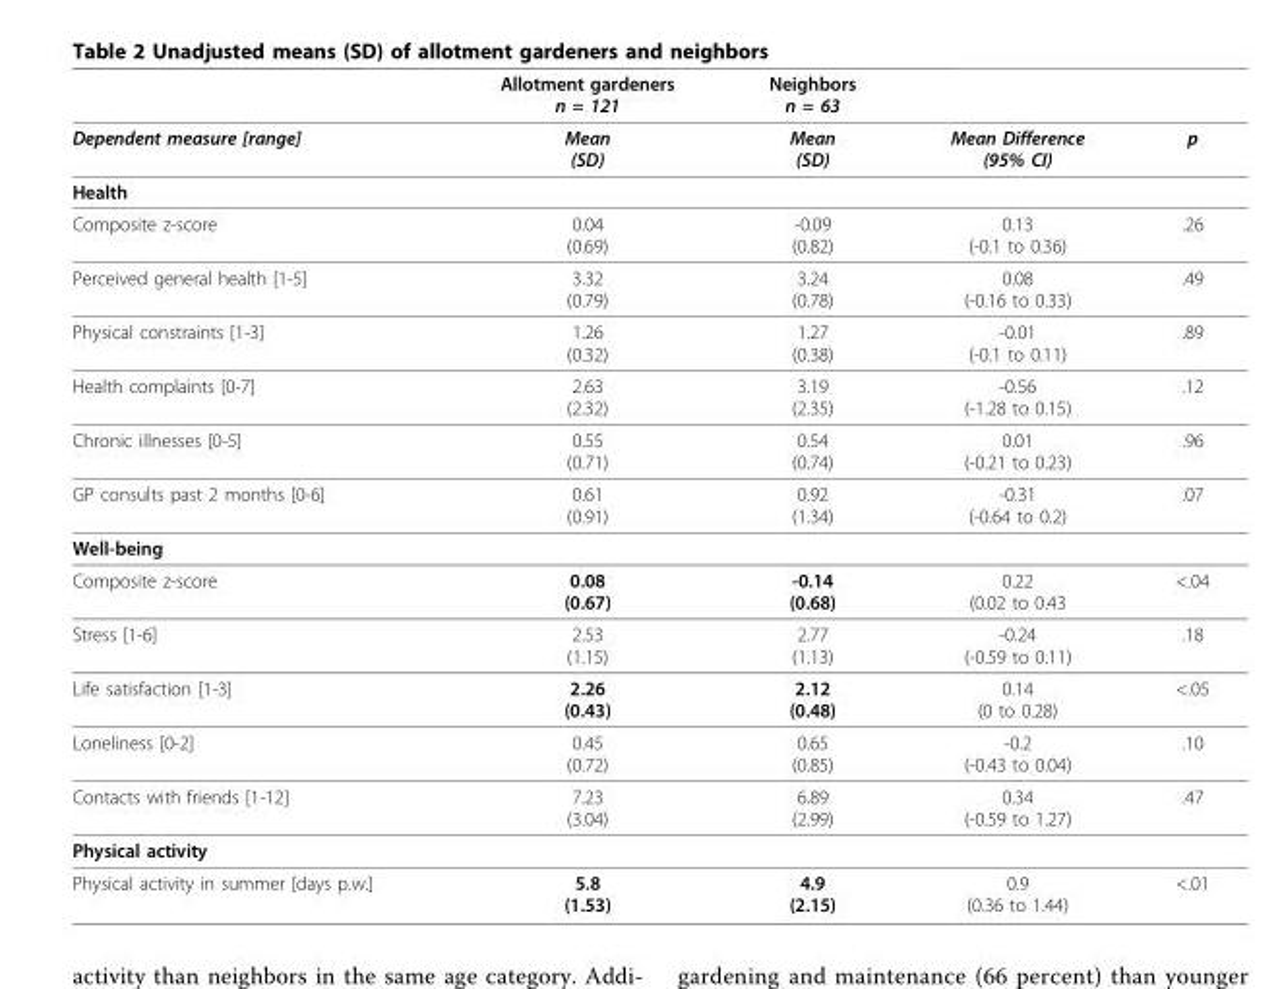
<table><thead><tr><td></td><td>Allotment gardeners n = 121</td><td>Neighbors n = 63</td><td></td><td></td></tr></thead><tbody><tr><td>Dependent measure [range]</td><td>Mean (SD)</td><td>Mean (SD)</td><td>Mean Difference (95% CI)</td><td>p</td></tr><tr><td colspan="5">Health</td></tr><tr><td>Composite z-score</td><td>0.04 (0.69)</td><td>-0.09 (0.82)</td><td>0.13 (-0.1 to 0.36)</td><td>.26</td></tr><tr><td>Perceived general health [1-5]</td><td>3.32 (0.79)</td><td>3.24 (0.78)</td><td>0.08 (-0.16 to 0.33)</td><td>.49</td></tr><tr><td>Physical constraints [1-3]</td><td>1.26 (0.32)</td><td>1.27 (0.38)</td><td>-0.01 (-0.1 to 0.11)</td><td>.89</td></tr><tr><td>Health complaints [0-7]</td><td>2.63 (2.32)</td><td>3.19 (2.35)</td><td>-0.56 (-1.28 to 0.15)</td><td>.12</td></tr><tr><td>Chronic illnesses [0-5]</td><td>0.55 (0.71)</td><td>0.54 (0.74)</td><td>0.01 (-0.21 to 0.23)</td><td>.96</td></tr><tr><td>GP consults past 2 months [0-6]</td><td>0.61 (0.91)</td><td>0.92 (1.34)</td><td>-0.31 (-0.64 to 0.2)</td><td>.07</td></tr><tr><td colspan="5">Well-being</td></tr><tr><td>Composite z-score</td><td>0.08 (0.67)</td><td>-0.14 (0.68)</td><td>0.22 (0.02 to 0.43</td><td>&lt;.04</td></tr><tr><td>Stress [1-6]</td><td>2.53 (1.15)</td><td>2.77 (1.13)</td><td>-0.24 (-0.59 to 0.11)</td><td>.18</td></tr><tr><td>Life satisfaction [1-3]</td><td>2.26 (0.43)</td><td>2.12 (0.48)</td><td>0.14 (0 to 0.28)</td><td>&lt;.05</td></tr><tr><td>Loneliness [0-2]</td><td>0.45 (0.72)</td><td>0.65 (0.85)</td><td>-0.2 (-0.43 to 0.04)</td><td>.10</td></tr><tr><td>Contacts with friends [1-12]</td><td>7.23 (3.04)</td><td>6.89 (2.99)</td><td>0.34 (-0.59 to 1.27)</td><td>.47</td></tr><tr><td colspan="5">Physical activity</td></tr><tr><td>Physical activity in summer [days p.w.]</td><td>5.8 (1.53)</td><td>4.9 (2.15)</td><td>0.9 (0.36 to 1.44)</td><td>&lt;.01</td></tr></tbody></table>